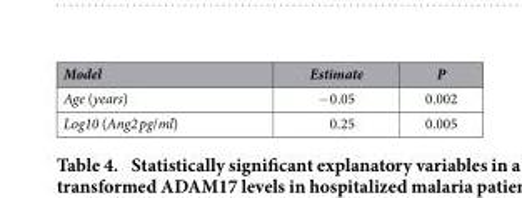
<table><thead><tr><td>Model</td><td>Estimate</td><td>P</td></tr></thead><tbody><tr><td>Age (years)</td><td>− 0.05</td><td>0.002</td></tr><tr><td>Log10 (Ang2 pg/ml)</td><td>0.25</td><td>0.005</td></tr></tbody></table>